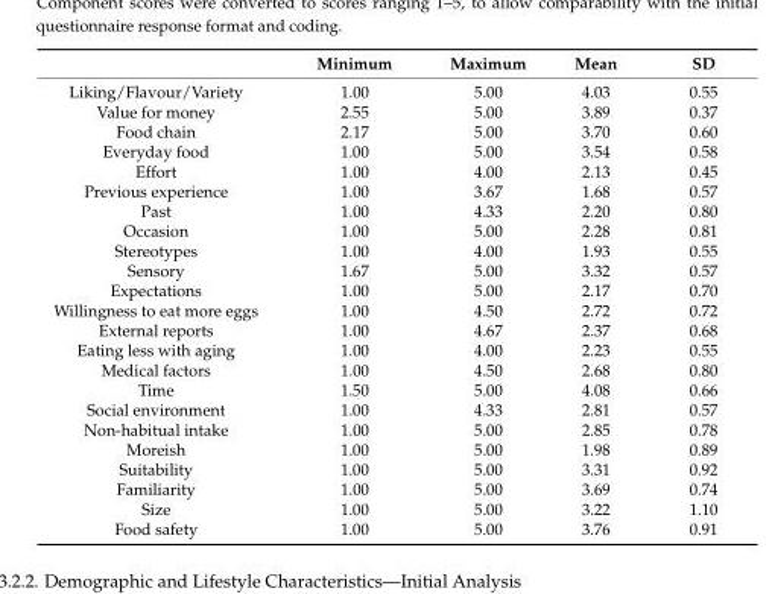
<table><thead><tr><td></td><td>Minimum</td><td>Maximum</td><td>Mean</td><td>SD</td></tr></thead><tbody><tr><td>Liking/Flavour/Variety</td><td>1.00</td><td>5.00</td><td>4.03</td><td>0.55</td></tr><tr><td>Value for money</td><td>2.55</td><td>5.00</td><td>3.89</td><td>0.37</td></tr><tr><td>Food chain</td><td>2.17</td><td>5.00</td><td>3.70</td><td>0.60</td></tr><tr><td>Everyday food</td><td>1.00</td><td>5.00</td><td>3.54</td><td>0.58</td></tr><tr><td>Effort</td><td>1.00</td><td>4.00</td><td>2.13</td><td>0.45</td></tr><tr><td>Previous experience</td><td>1.00</td><td>3.67</td><td>1.68</td><td>0.57</td></tr><tr><td>Past</td><td>1.00</td><td>4.33</td><td>2.20</td><td>0.80</td></tr><tr><td>Occasion</td><td>1.00</td><td>5.00</td><td>2.28</td><td>0.81</td></tr><tr><td>Stereotypes</td><td>1.00</td><td>4.00</td><td>1.93</td><td>0.55</td></tr><tr><td>Sensory</td><td>1.67</td><td>5.00</td><td>3.32</td><td>0.57</td></tr><tr><td>Expectations</td><td>1.00</td><td>5.00</td><td>2.17</td><td>0.70</td></tr><tr><td>Willingness to eat more eggs</td><td>1.00</td><td>4.50</td><td>2.72</td><td>0.72</td></tr><tr><td>External reports</td><td>1.00</td><td>4.67</td><td>2.37</td><td>0.68</td></tr><tr><td>Eating less with aging</td><td>1.00</td><td>4.00</td><td>2.23</td><td>0.55</td></tr><tr><td>Medical factors</td><td>1.00</td><td>4.50</td><td>2.68</td><td>0.80</td></tr><tr><td>Time</td><td>1.50</td><td>5.00</td><td>4.08</td><td>0.66</td></tr><tr><td>Social environment</td><td>1.00</td><td>4.33</td><td>2.81</td><td>0.57</td></tr><tr><td>Non-habitual intake</td><td>1.00</td><td>5.00</td><td>2.85</td><td>0.78</td></tr><tr><td>Moreish</td><td>1.00</td><td>5.00</td><td>1.98</td><td>0.89</td></tr><tr><td>Suitability</td><td>1.00</td><td>5.00</td><td>3.31</td><td>0.92</td></tr><tr><td>Familiarity</td><td>1.00</td><td>5.00</td><td>3.69</td><td>0.74</td></tr><tr><td>Size</td><td>1.00</td><td>5.00</td><td>3.22</td><td>1.10</td></tr><tr><td>Food safety</td><td>1.00</td><td>5.00</td><td>3.76</td><td>0.91</td></tr></tbody></table>